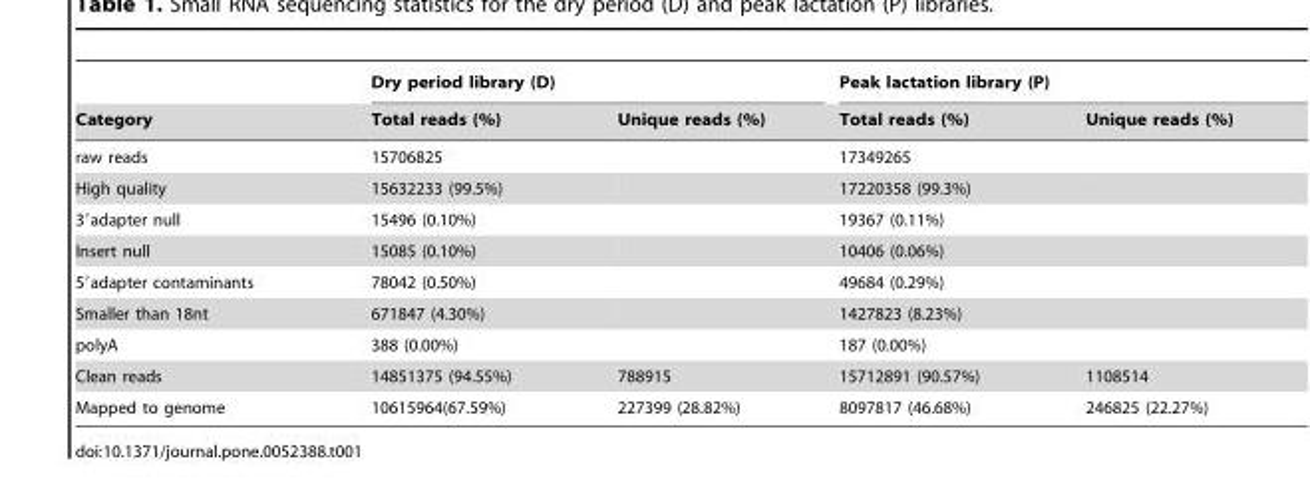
<table><thead><tr><td rowspan="2">Category</td><td colspan="2">Dry period library (D)</td><td colspan="2">Peak lactation library (P)</td></tr><tr><td>Total reads (%)</td><td>Unique reads (%)</td><td>Total reads (%)</td><td>Unique reads (%)</td></tr></thead><tbody><tr><td>raw reads</td><td>15706825</td><td></td><td>17349265</td><td></td></tr><tr><td>High quality</td><td>15632233 (99.5%)</td><td></td><td>17220358 (99.3%)</td><td></td></tr><tr><td>3′adapter null</td><td>15496 (0.10%)</td><td></td><td>19367 (0.11%)</td><td></td></tr><tr><td>Insert null</td><td>15085 (0.10%)</td><td></td><td>10406 (0.06%)</td><td></td></tr><tr><td>5′adapter contaminants</td><td>78042 (0.50%)</td><td></td><td>49684 (0.29%)</td><td></td></tr><tr><td>Smaller than 18nt</td><td>671847 (4.30%)</td><td></td><td>1427823 (8.23%)</td><td></td></tr><tr><td>polyA</td><td>388 (0.00%)</td><td></td><td>187 (0.00%)</td><td></td></tr><tr><td>Clean reads</td><td>14851375 (94.55%)</td><td>788915</td><td>15712891 (90.57%)</td><td>1108514</td></tr><tr><td>Mapped to genome</td><td>10615964(67.59%)</td><td>227399 (28.82%)</td><td>8097817 (46.68%)</td><td>246825 (22.27%)</td></tr></tbody></table>